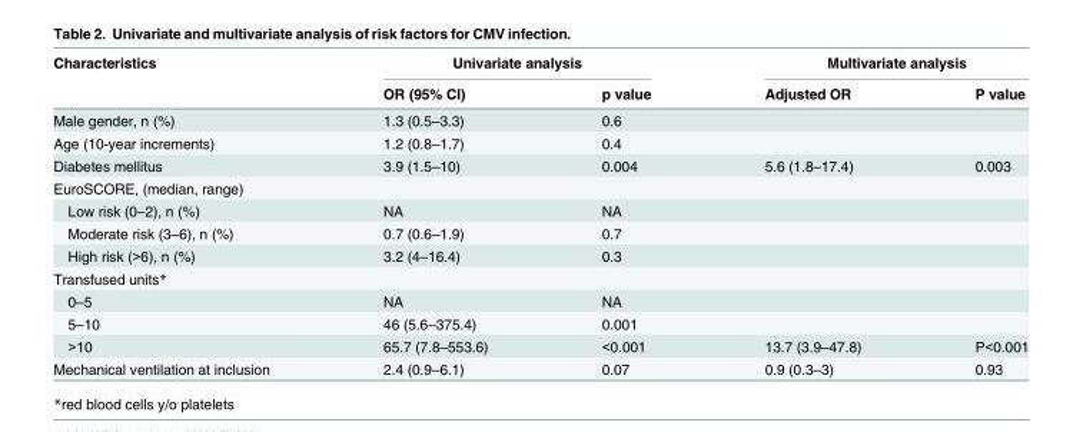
<table><thead><tr><td rowspan="2">Characteristics</td><td colspan="2">Univariate analysis</td><td colspan="2">Multivariate analysis</td></tr><tr><td>OR (95% CI)</td><td>p value</td><td>Adjusted OR</td><td>P value</td></tr></thead><tbody><tr><td>Male gender, n (%)</td><td>1.3 (0.5–3.3)</td><td>0.6</td><td></td><td></td></tr><tr><td>Age (10-year increments)</td><td>1.2 (0.8–1.7)</td><td>0.4</td><td></td><td></td></tr><tr><td>Diabetes mellitus</td><td>3.9 (1.5–10)</td><td>0.004</td><td>5.6 (1.8–17.4)</td><td>0.003</td></tr><tr><td colspan="5">EuroSCORE, (median, range)</td></tr><tr><td>Low risk (0–2), n (%)</td><td>NA</td><td>NA</td><td></td><td></td></tr><tr><td>Moderate risk (3–6), n (%)</td><td>0.7 (0.6–1.9)</td><td>0.7</td><td></td><td></td></tr><tr><td>High risk (&gt;6), n (%)</td><td>3.2 (4–16.4)</td><td>0.3</td><td></td><td></td></tr><tr><td colspan="5">Transfused units*</td></tr><tr><td>0–5</td><td>NA</td><td>NA</td><td></td><td></td></tr><tr><td>5–10</td><td>46 (5.6–375.4)</td><td>0.001</td><td></td><td></td></tr><tr><td>&gt;10</td><td>65.7 (7.8–553.6)</td><td>&lt;0.001</td><td>13.7 (3.9–47.8)</td><td>P&lt;0.001</td></tr><tr><td>Mechanical ventilation at inclusion</td><td>2.4 (0.9–6.1)</td><td>0.07</td><td>0.9 (0.3–3)</td><td>0.93</td></tr></tbody></table>